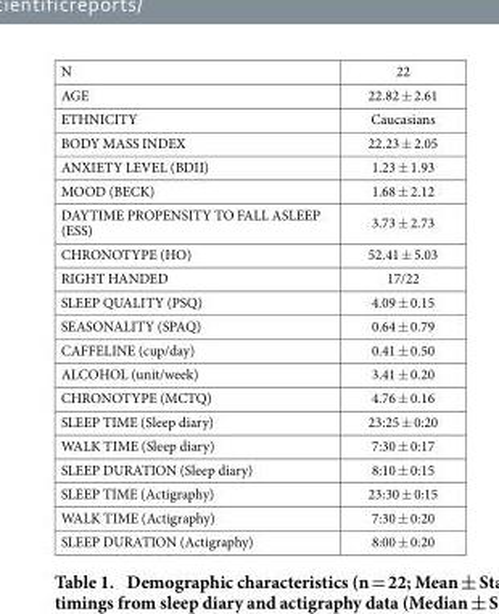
<table><tbody><tr><td>N</td><td>22</td></tr><tr><td>AGE</td><td>22.82 ± 2.61</td></tr><tr><td>ETHNICITY</td><td>Caucasians</td></tr><tr><td>BODY MASS INDEX</td><td>22.23 ± 2.05</td></tr><tr><td>ANXIETY LEVEL (BDII)</td><td>1.23 ± 1.93</td></tr><tr><td>MOOD (BECK)</td><td>1.68 ± 2.12</td></tr><tr><td>DAYTIME PROPENSITY TO FALL ASLEEP (ESS)</td><td>3.73 ± 2.73</td></tr><tr><td>CHRONOTYPE (HO)</td><td>52.41 ± 5.03</td></tr><tr><td>RIGHT HANDED</td><td>17/22</td></tr><tr><td>SLEEP QUALITY (PSQ)</td><td>4.09 ± 0.15</td></tr><tr><td>SEASONALITY (SPAQ)</td><td>0.64 ± 0.79</td></tr><tr><td>CAFFELINE (cup/day)</td><td>0.41 ± 0.50</td></tr><tr><td>ALCOHOL (unit/week)</td><td>3.41 ± 0.20</td></tr><tr><td>CHRONOTYPE (MCTQ)</td><td>4.76 ± 0.16</td></tr><tr><td>SLEEP TIME (Sleep diary)</td><td>23:25 ± 0:20</td></tr><tr><td>WALK TIME (Sleep diary)</td><td>7:30 ± 0:17</td></tr><tr><td>SLEEP DURATION (Sleep diary)</td><td>8:10 ± 0:15</td></tr><tr><td>SLEEP TIME (Actigraphy)</td><td>23:30 ± 0:15</td></tr><tr><td>WALK TIME (Actigraphy)</td><td>7:30 ± 0:20</td></tr><tr><td>SLEEP DURATION (Actigraphy)</td><td>8:00 ± 0:20</td></tr></tbody></table>